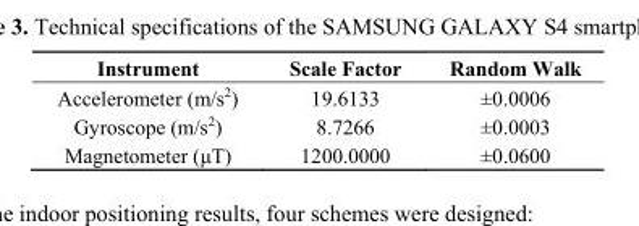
<table><thead><tr><td>Instrument</td><td>Scale Factor</td><td>Random Walk</td></tr></thead><tbody><tr><td>Accelerometer (m/s<sup>2</sup>)</td><td>19.6133</td><td>±0.0006</td></tr><tr><td>Gyroscope (m/s<sup>2</sup>)</td><td>8.7266</td><td>±0.0003</td></tr><tr><td>Magnetometer (μT)</td><td>1200.0000</td><td>±0.0600</td></tr></tbody></table>